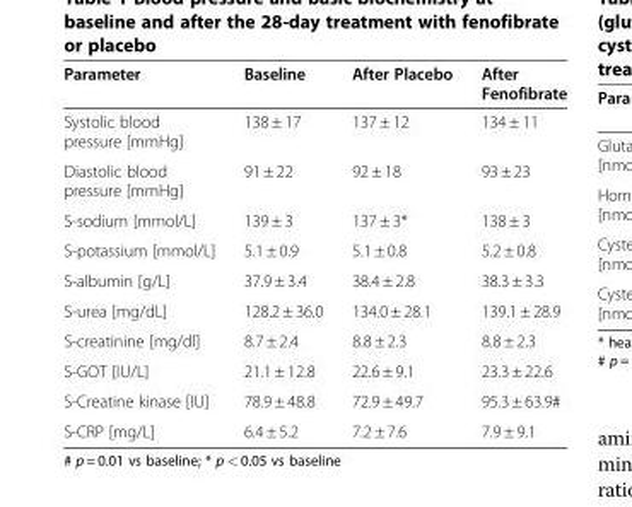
<table><thead><tr><td>Parameter</td><td>Baseline</td><td>After Placebo</td><td>After Fenofibrate</td></tr></thead><tbody><tr><td>Systolic blood pressure [mmHg]</td><td>138 ± 17</td><td>137 ± 12</td><td>134 ± 11</td></tr><tr><td>Diastolic blood pressure [mmHg]</td><td>91 ± 22</td><td>92 ± 18</td><td>93 ± 23</td></tr><tr><td>S-sodium [mmol/L]</td><td>139 ± 3</td><td>137 ± 3*</td><td>138 ± 3</td></tr><tr><td>S-potassium [mmol/L]</td><td>5.1 ± 0.9</td><td>5.1 ± 0.8</td><td>5.2 ± 0.8</td></tr><tr><td>S-albumin [g/L]</td><td>37.9 ± 3.4</td><td>38.4 ± 2.8</td><td>38.3 ± 3.3</td></tr><tr><td>S-urea [mg/dL]</td><td>128.2 ± 36.0</td><td>134.0 ± 28.1</td><td>139.1 ± 28.9</td></tr><tr><td>S-creatinine [mg/dl]</td><td>8.7 ± 2.4</td><td>8.8 ± 2.3</td><td>8.8 ± 2.3</td></tr><tr><td>S-GOT [IU/L]</td><td>21.1 ± 12.8</td><td>22.6 ± 9.1</td><td>23.3 ± 22.6</td></tr><tr><td>S-Creatine kinase [IU]</td><td>78.9 ± 48.8</td><td>72.9 ± 49.7</td><td>95.3 ± 63.9#</td></tr><tr><td>S-CRP [mg/L]</td><td>6.4 ± 5.2</td><td>7.2 ± 7.6</td><td>7.9 ± 9.1</td></tr></tbody></table>